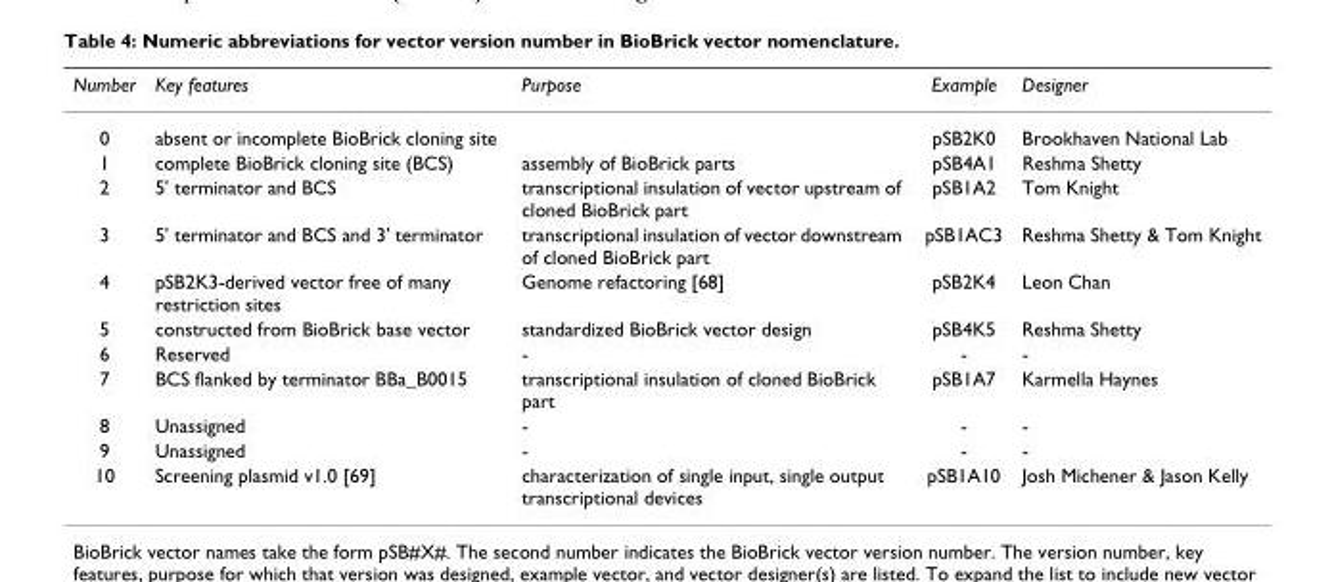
<table><thead><tr><td>Number</td><td>Key features</td><td>Purpose</td><td>Example</td><td>Designer</td></tr></thead><tbody><tr><td>0</td><td>absent or incomplete BioBrick cloning site</td><td></td><td>pSB2K0</td><td>Brookhaven National Lab</td></tr><tr><td>1</td><td>complete BioBrick cloning site (BCS)</td><td>assembly of BioBrick parts</td><td>pSB4A1</td><td>Reshma Shetty</td></tr><tr><td>2</td><td>5&#x27; terminator and BCS</td><td>transcriptional insulation of vector upstream of cloned BioBrick part</td><td>pSB1A2</td><td>Tom Knight</td></tr><tr><td>3</td><td>5&#x27; terminator and BCS and 3&#x27; terminator</td><td>transcriptional insulation of vector downstream of cloned BioBrick part</td><td>pSB1AC3</td><td>Reshma Shetty &amp; Tom Knight</td></tr><tr><td>4</td><td>pSB2K3-derived vector free of many restriction sites</td><td>Genome refactoring [68]</td><td>pSB2K4</td><td>Leon Chan</td></tr><tr><td>5</td><td>constructed from BioBrick base vector</td><td>standardized BioBrick vector design</td><td>pSB4K5</td><td>Reshma Shetty</td></tr><tr><td>6</td><td>Reserved</td><td>-</td><td>-</td><td>-</td></tr><tr><td>7</td><td>BCS flanked by terminator BBa_B0015</td><td>transcriptional insulation of cloned BioBrick part</td><td>pSB1A7</td><td>Karmella Haynes</td></tr><tr><td>8</td><td>Unassigned</td><td>-</td><td>-</td><td>-</td></tr><tr><td>9</td><td>Unassigned</td><td>-</td><td>-</td><td>-</td></tr><tr><td>10</td><td>Screening plasmid v1.0 [69]</td><td>characterization of single input, single output transcriptional devices</td><td>pSB1A10</td><td>Josh Michener &amp; Jason Kelly</td></tr></tbody></table>